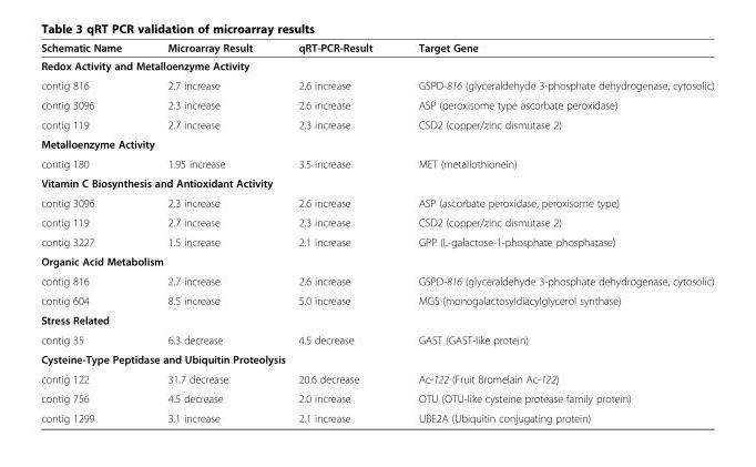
<table><thead><tr><td>Schematic Name</td><td>Microarray Result</td><td>qRT-PCR-Result</td><td>Target Gene</td></tr></thead><tbody><tr><td colspan="4">Redox Activity and Metalloenzyme Activity</td></tr><tr><td>contig 816</td><td>2.7 increase</td><td>2.6 increase</td><td>GSPD-816 (glyceraldehyde 3-phosphate dehydrogenase, cytosolic)</td></tr><tr><td>contig 3096</td><td>2.3 increase</td><td>2.6 increase</td><td>ASP (peroxisome type ascorbate peroxidase)</td></tr><tr><td>contig 119</td><td>2.7 increase</td><td>2.3 increase</td><td>CSD2 (copper/zinc dismutase 2)</td></tr><tr><td colspan="4">Metalloenzyme Activity</td></tr><tr><td>contig 180</td><td>1.95 increase</td><td>3.5 increase</td><td>MET (metallothionein)</td></tr><tr><td colspan="4">Vitamin C Biosynthesis and Antioxidant Activity</td></tr><tr><td>contig 3096</td><td>2.3 increase</td><td>2.6 increase</td><td>ASP (ascorbate peroxidase, peroxisome type)</td></tr><tr><td>contig 119</td><td>2.7 increase</td><td>2.3 increase</td><td>CSD2 (copper/zinc dismutase 2)</td></tr><tr><td>contig 3227</td><td>1.5 increase</td><td>2.1 increase</td><td>GPP (L-galactose-1-phosphate phosphatase)</td></tr><tr><td colspan="4">Organic Acid Metabolism</td></tr><tr><td>contig 816</td><td>2.7 increase</td><td>2.6 increase</td><td>GSPD-816 (glyceraldehyde 3-phosphate dehydrogenase, cytosolic)</td></tr><tr><td>contig 604</td><td>8.5 increase</td><td>5.0 increase</td><td>MGS (monogalactosyldiacylglycerol synthase)</td></tr><tr><td colspan="4">Stress Related</td></tr><tr><td>contig 35</td><td>6.3 decrease</td><td>4.5 decrease</td><td>GAST (GAST-like protein)</td></tr><tr><td colspan="4">Cysteine-Type Peptidase and Ubiquitin Proteolysis</td></tr><tr><td>contig 122</td><td>31.7 decrease</td><td>20.6 decrease</td><td>Ac-122 (Fruit Bromelain Ac-122)</td></tr><tr><td>contig 756</td><td>4.5 decrease</td><td>2.0 increase</td><td>OTU (OTU-like cysteine protease family protein)</td></tr><tr><td>contig 1299</td><td>3.1 increase</td><td>2.1 increase</td><td>UBE2A (Ubiquitin conjugating protein)</td></tr></tbody></table>